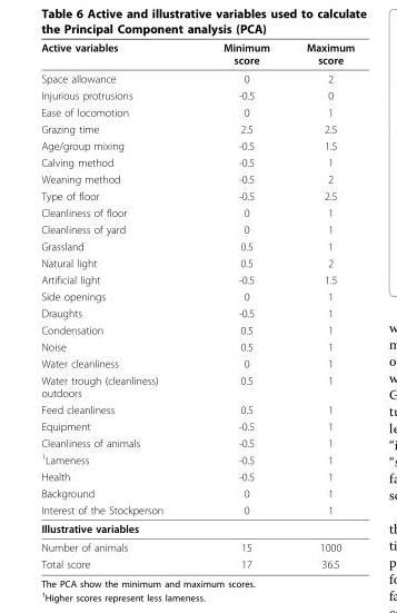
<table><thead><tr><td>Active variables</td><td>Minimum score</td><td>Maximum score</td></tr></thead><tbody><tr><td>Space allowance</td><td>0</td><td>2</td></tr><tr><td>Injurious protrusions</td><td>-0.5</td><td>0</td></tr><tr><td>Ease of locomotion</td><td>0</td><td>1</td></tr><tr><td>Grazing time</td><td>2.5</td><td>2.5</td></tr><tr><td>Age/group mixing</td><td>-0.5</td><td>1.5</td></tr><tr><td>Calving method</td><td>-0.5</td><td>1</td></tr><tr><td>Weaning method</td><td>-0.5</td><td>2</td></tr><tr><td>Type of floor</td><td>-0.5</td><td>2.5</td></tr><tr><td>Cleanliness of floor</td><td>0</td><td>1</td></tr><tr><td>Cleanliness of yard</td><td>0</td><td>1</td></tr><tr><td>Grassland</td><td>0.5</td><td>1</td></tr><tr><td>Natural light</td><td>0.5</td><td>2</td></tr><tr><td>Artificial light</td><td>-0.5</td><td>1.5</td></tr><tr><td>Side openings</td><td>0</td><td>1</td></tr><tr><td>Draughts</td><td>-0.5</td><td>1</td></tr><tr><td>Condensation</td><td>0.5</td><td>1</td></tr><tr><td>Noise</td><td>0.5</td><td>1</td></tr><tr><td>Water cleanliness</td><td>0</td><td>1</td></tr><tr><td>Water trough (cleanliness) outdoors</td><td>0.5</td><td>1</td></tr><tr><td>Feed cleanliness</td><td>0.5</td><td>1</td></tr><tr><td>Equipment</td><td>-0.5</td><td>1</td></tr><tr><td>Cleanliness of animals</td><td>-0.5</td><td>1</td></tr><tr><td><sup>1</sup>Lameness</td><td>-0.5</td><td>1</td></tr><tr><td>Health</td><td>-0.5</td><td>1</td></tr><tr><td>Background</td><td>0</td><td>1</td></tr><tr><td>Interest of the Stockperson</td><td>0</td><td>1</td></tr><tr><td colspan="3">Illustrative variables</td></tr><tr><td>Number of animals</td><td>15</td><td>1000</td></tr><tr><td>Total score</td><td>17</td><td>36.5</td></tr></tbody></table>